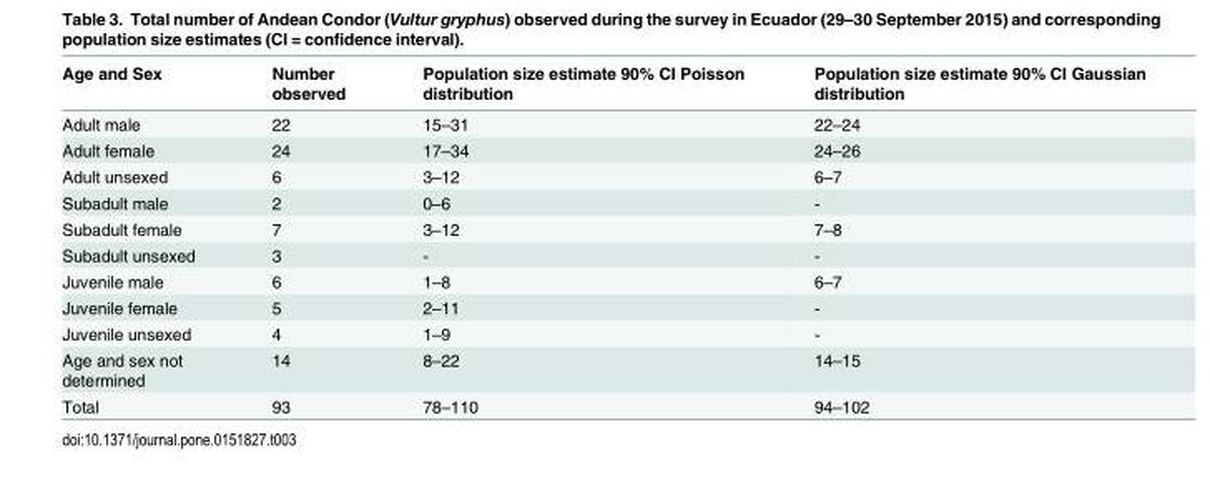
<table><thead><tr><td>Age and Sex</td><td>Number observed</td><td>Population size estimate 90% CI Poisson distribution</td><td>Population size estimate 90% CI Gaussian distribution</td></tr></thead><tbody><tr><td>Adult male</td><td>22</td><td>15–31</td><td>22–24</td></tr><tr><td>Adult female</td><td>24</td><td>17–34</td><td>24–26</td></tr><tr><td>Adult unsexed</td><td>6</td><td>3–12</td><td>6–7</td></tr><tr><td>Subadult male</td><td>2</td><td>0–6</td><td>-</td></tr><tr><td>Subadult female</td><td>7</td><td>3–12</td><td>7–8</td></tr><tr><td>Subadult unsexed</td><td>3</td><td>-</td><td>-</td></tr><tr><td>Juvenile male</td><td>6</td><td>1–8</td><td>6–7</td></tr><tr><td>Juvenile female</td><td>5</td><td>2–11</td><td>-</td></tr><tr><td>Juvenile unsexed</td><td>4</td><td>1–9</td><td>-</td></tr><tr><td>Age and sex not determined</td><td>14</td><td>8–22</td><td>14–15</td></tr><tr><td>Total</td><td>93</td><td>78–110</td><td>94–102</td></tr></tbody></table>